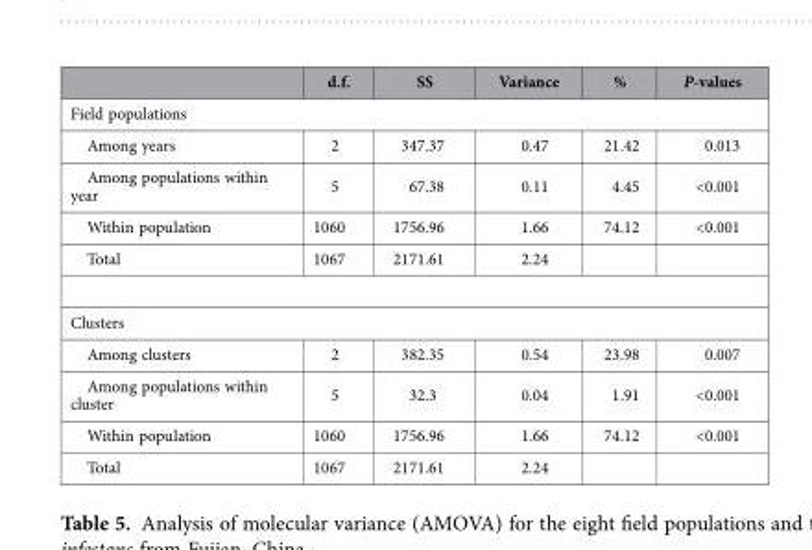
<table><thead><tr><td></td><td>d.f.</td><td>SS</td><td>Variance</td><td>%</td><td>P-values</td></tr></thead><tbody><tr><td colspan="6">Field populations</td></tr><tr><td>Among years</td><td>2</td><td>347.37</td><td>0.47</td><td>21.42</td><td>0.013</td></tr><tr><td>Among populations within year</td><td>5</td><td>67.38</td><td>0.11</td><td>4.45</td><td>&lt;0.001</td></tr><tr><td>Within population</td><td>1060</td><td>1756.96</td><td>1.66</td><td>74.12</td><td>&lt;0.001</td></tr><tr><td>Total</td><td>1067</td><td>2171.61</td><td>2.24</td><td></td><td></td></tr><tr><td colspan="6">Clusters</td></tr><tr><td>Among clusters</td><td>2</td><td>382.35</td><td>0.54</td><td>23.98</td><td>0.007</td></tr><tr><td>Among populations within cluster</td><td>5</td><td>32.3</td><td>0.04</td><td>1.91</td><td>&lt;0.001</td></tr><tr><td>Within population</td><td>1060</td><td>1756.96</td><td>1.66</td><td>74.12</td><td>&lt;0.001</td></tr><tr><td>Total</td><td>1067</td><td>2171.61</td><td>2.24</td><td></td><td></td></tr></tbody></table>